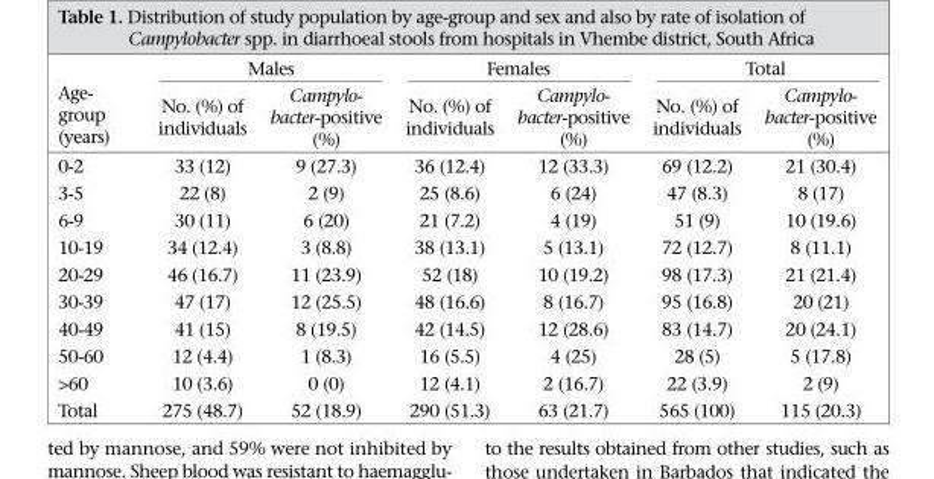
<table><thead><tr><td rowspan="2">Age- group (years)</td><td colspan="2">Males</td><td colspan="2">Females</td><td colspan="2">Total</td></tr><tr><td>No. (%) of individuals</td><td>Campylo- bacter-positive (%)</td><td>No. (%) of individuals</td><td>Campylo- bacter-positive (%)</td><td>No. (%) of individuals</td><td>Campylo- bacter-positive (%)</td></tr></thead><tbody><tr><td>0-2</td><td>33 (12)</td><td>9 (27.3)</td><td>36 (12.4)</td><td>12 (33.3)</td><td>69 (12.2)</td><td>21 (30.4)</td></tr><tr><td>3-5</td><td>22 (8)</td><td>2 (9)</td><td>25 (8.6)</td><td>6 (24)</td><td>47 (8.3)</td><td>8 (17)</td></tr><tr><td>6-9</td><td>30 (11)</td><td>6 (20)</td><td>21 (7.2)</td><td>4 (19)</td><td>51 (9)</td><td>10 (19.6)</td></tr><tr><td>10-19</td><td>34 (12.4)</td><td>3 (8.8)</td><td>38 (13.1)</td><td>5 (13.1)</td><td>72 (12.7)</td><td>8 (11.1)</td></tr><tr><td>20-29</td><td>46 (16.7)</td><td>11 (23.9)</td><td>52 (18)</td><td>10 (19.2)</td><td>98 (17.3)</td><td>21 (21.4)</td></tr><tr><td>30-39</td><td>47 (17)</td><td>12 (25.5)</td><td>48 (16.6)</td><td>8 (16.7)</td><td>95 (16.8)</td><td>20 (21)</td></tr><tr><td>40-49</td><td>41 (15)</td><td>8 (19.5)</td><td>42 (14.5)</td><td>12 (28.6)</td><td>83 (14.7)</td><td>20 (24.1)</td></tr><tr><td>50-60</td><td>12 (4.4)</td><td>1 (8.3)</td><td>16 (5.5)</td><td>4 (25)</td><td>28 (5)</td><td>5 (17.8)</td></tr><tr><td>&gt;60</td><td>10 (3.6)</td><td>0 (0)</td><td>12 (4.1)</td><td>2 (16.7)</td><td>22 (3.9)</td><td>2 (9)</td></tr><tr><td>Total</td><td>275 (48.7)</td><td>52 (18.9)</td><td>290 (51.3)</td><td>63 (21.7)</td><td>565 (100)</td><td>115 (20.3)</td></tr></tbody></table>